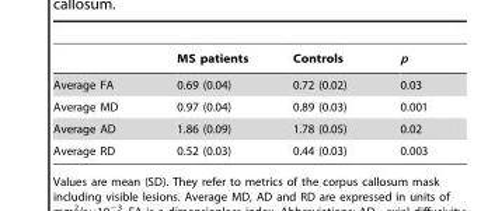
<table><thead><tr><td></td><td>MS patients</td><td>Controls</td><td>p</td></tr></thead><tbody><tr><td>Average FA</td><td>0.69 (0.04)</td><td>0.72 (0.02)</td><td>0.03</td></tr><tr><td>Average MD</td><td>0.97 (0.04)</td><td>0.89 (0.03)</td><td>0.001</td></tr><tr><td>Average AD</td><td>1.86 (0.09)</td><td>1.78 (0.05)</td><td>0.02</td></tr><tr><td>Average RD</td><td>0.52 (0.03)</td><td>0.44 (0.03)</td><td>0.003</td></tr></tbody></table>